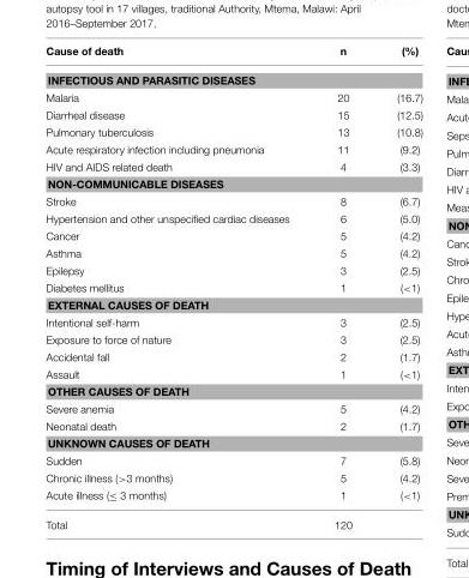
<table><thead><tr><td>Cause of death</td><td>n</td><td>(%)</td></tr></thead><tbody><tr><td colspan="3">INFECTIOUS AND PARASITIC DISEASES</td></tr><tr><td>Malaria</td><td>20</td><td>(16.7)</td></tr><tr><td>Diarrheal disease</td><td>15</td><td>(12.5)</td></tr><tr><td>Pulmonary tuberculosis</td><td>13</td><td>(10.8)</td></tr><tr><td>Acute respiratory infection including pneumonia</td><td>11</td><td>(9.2)</td></tr><tr><td>HIV and AIDS related death</td><td>4</td><td>(3.3)</td></tr><tr><td colspan="3">NON-COMMUNICABLE DISEASES</td></tr><tr><td>Stroke</td><td>8</td><td>(6.7)</td></tr><tr><td>Hypertension and other unspecified cardiac diseases</td><td>6</td><td>(5.0)</td></tr><tr><td>Cancer</td><td>5</td><td>(4.2)</td></tr><tr><td>Asthma</td><td>5</td><td>(4.2)</td></tr><tr><td>Epilepsy</td><td>3</td><td>(2.5)</td></tr><tr><td>Diabetes mellitus</td><td>1</td><td>(&lt;1)</td></tr><tr><td colspan="3">EXTERNAL CAUSES OF DEATH</td></tr><tr><td>Intentional self-harm</td><td>3</td><td>(2.5)</td></tr><tr><td>Exposure to force of nature</td><td>3</td><td>(2.5)</td></tr><tr><td>Accidental fall</td><td>2</td><td>(1.7)</td></tr><tr><td>Assault</td><td>1</td><td>(&lt;1)</td></tr><tr><td colspan="3">OTHER CAUSES OF DEATH</td></tr><tr><td>Severe anemia</td><td>5</td><td>(4.2)</td></tr><tr><td>Neonatal death</td><td>2</td><td>(1.7)</td></tr><tr><td colspan="3">UNKNOWN CAUSES OF DEATH</td></tr><tr><td>Sudden</td><td>7</td><td>(5.8)</td></tr><tr><td>Chronic illness (&gt;3 months)</td><td>5</td><td>(4.2)</td></tr><tr><td>Acute illness (≤ 3 months)</td><td>1</td><td>(&lt;1)</td></tr><tr><td>Total</td><td>120</td><td></td></tr></tbody></table>